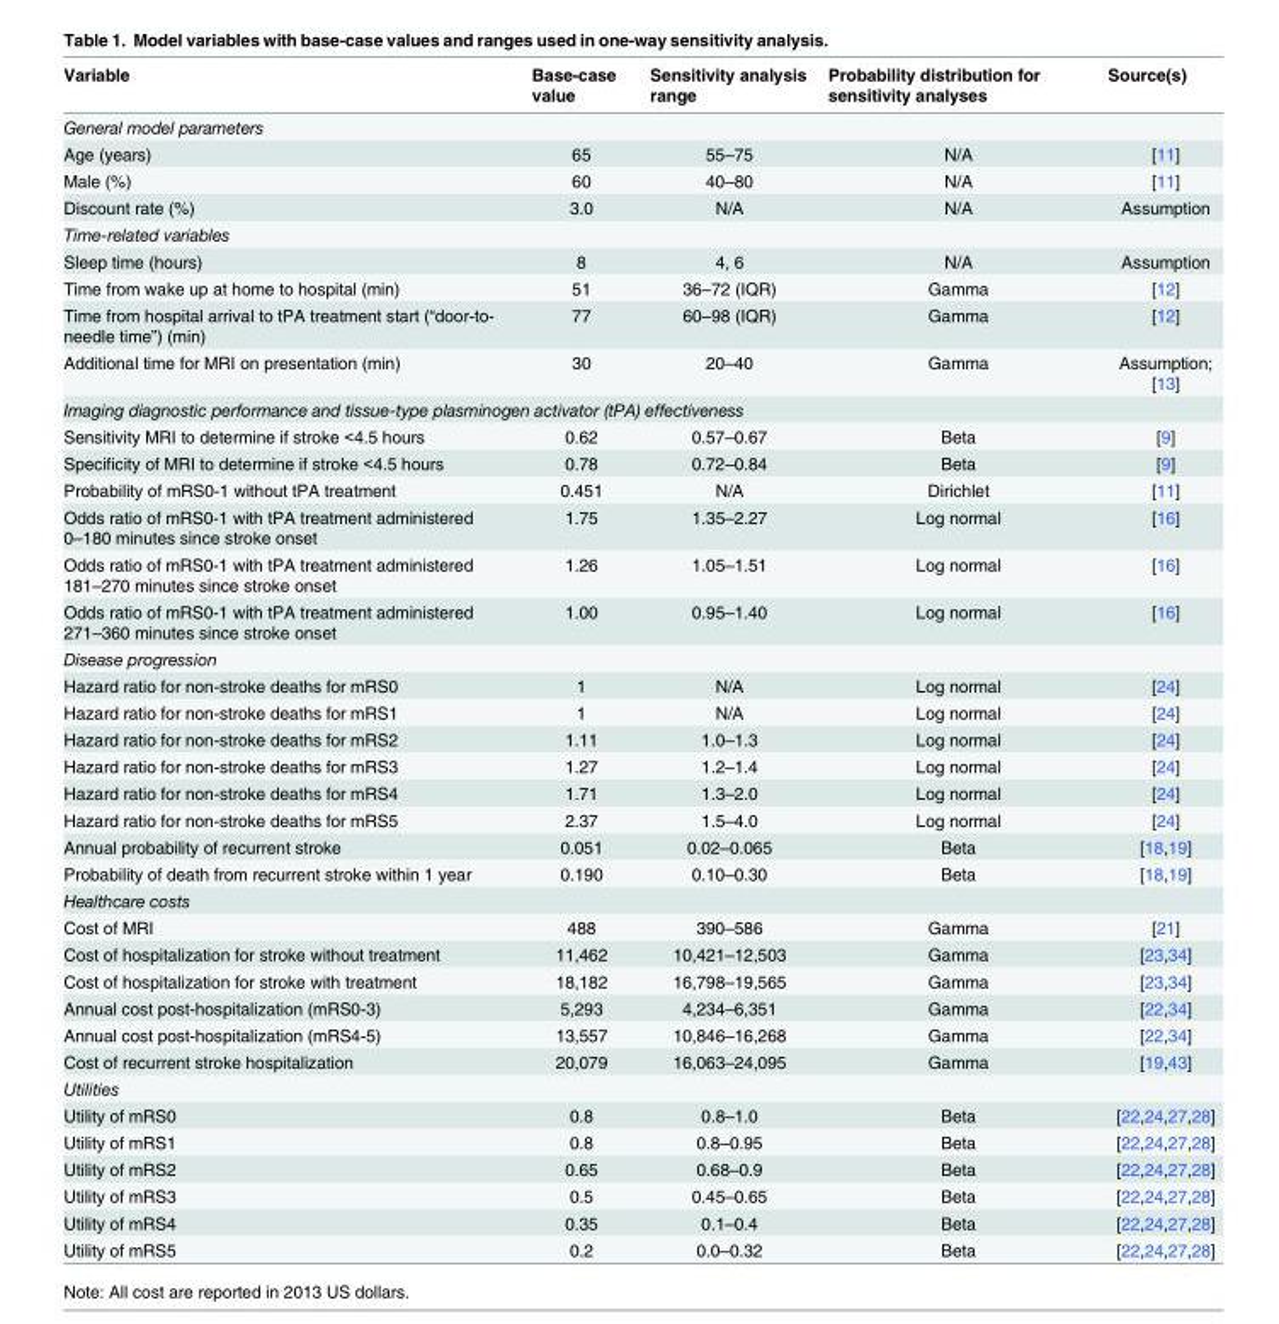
<table><thead><tr><td>Variable</td><td>Base-case value</td><td>Sensitivity analysis range</td><td>Probability distribution for sensitivity analyses</td><td>Source(s)</td></tr></thead><tbody><tr><td colspan="5">General model parameters</td></tr><tr><td>Age (years)</td><td>65</td><td>55–75</td><td>N/A</td><td>[11]</td></tr><tr><td>Male (%)</td><td>60</td><td>40–80</td><td>N/A</td><td>[11]</td></tr><tr><td>Discount rate (%)</td><td>3.0</td><td>N/A</td><td>N/A</td><td>Assumption</td></tr><tr><td colspan="5">Time-related variables</td></tr><tr><td>Sleep time (hours)</td><td>8</td><td>4, 6</td><td>N/A</td><td>Assumption</td></tr><tr><td>Time from wake up at home to hospital (min)</td><td>51</td><td>36–72 (IQR)</td><td>Gamma</td><td>[12]</td></tr><tr><td>Time from hospital arrival to tPA treatment start (“door-to- needle time”) (min)</td><td>77</td><td>60–98 (IQR)</td><td>Gamma</td><td>[12]</td></tr><tr><td>Additional time for MRI on presentation (min)</td><td>30</td><td>20–40</td><td>Gamma</td><td>Assumption; [13]</td></tr><tr><td colspan="5">Imaging diagnostic performance and tissue-type plasminogen activator (tPA) effectiveness</td></tr><tr><td>Sensitivity MRI to determine if stroke &lt;4.5 hours</td><td>0.62</td><td>0.57–0.67</td><td>Beta</td><td>[9]</td></tr><tr><td>Specificity of MRI to determine if stroke &lt;4.5 hours</td><td>0.78</td><td>0.72–0.84</td><td>Beta</td><td>[9]</td></tr><tr><td>Probability of mRS0-1 without tPA treatment</td><td>0.451</td><td>N/A</td><td>Dirichlet</td><td>[11]</td></tr><tr><td>Odds ratio of mRS0-1 with tPA treatment administered 0–180 minutes since stroke onset</td><td>1.75</td><td>1.35–2.27</td><td>Log normal</td><td>[16]</td></tr><tr><td>Odds ratio of mRS0-1 with tPA treatment administered 181–270 minutes since stroke onset</td><td>1.26</td><td>1.05–1.51</td><td>Log normal</td><td>[16]</td></tr><tr><td>Odds ratio of mRS0-1 with tPA treatment administered 271–360 minutes since stroke onset</td><td>1.00</td><td>0.95–1.40</td><td>Log normal</td><td>[16]</td></tr><tr><td colspan="5">Disease progression</td></tr><tr><td>Hazard ratio for non-stroke deaths for mRS0</td><td>1</td><td>N/A</td><td>Log normal</td><td>[24]</td></tr><tr><td>Hazard ratio for non-stroke deaths for mRS1</td><td>1</td><td>N/A</td><td>Log normal</td><td>[24]</td></tr><tr><td>Hazard ratio for non-stroke deaths for mRS2</td><td>1.11</td><td>1.0–1.3</td><td>Log normal</td><td>[24]</td></tr><tr><td>Hazard ratio for non-stroke deaths for mRS3</td><td>1.27</td><td>1.2–1.4</td><td>Log normal</td><td>[24]</td></tr><tr><td>Hazard ratio for non-stroke deaths for mRS4</td><td>1.71</td><td>1.3–2.0</td><td>Log normal</td><td>[24]</td></tr><tr><td>Hazard ratio for non-stroke deaths for mRS5</td><td>2.37</td><td>1.5–4.0</td><td>Log normal</td><td>[24]</td></tr><tr><td>Annual probability of recurrent stroke</td><td>0.051</td><td>0.02–0.065</td><td>Beta</td><td>[18,19]</td></tr><tr><td>Probability of death from recurrent stroke within 1 year</td><td>0.190</td><td>0.10–0.30</td><td>Beta</td><td>[18,19]</td></tr><tr><td colspan="5">Healthcare costs</td></tr><tr><td>Cost of MRI</td><td>488</td><td>390–586</td><td>Gamma</td><td>[21]</td></tr><tr><td>Cost of hospitalization for stroke without treatment</td><td>11,462</td><td>10,421–12,503</td><td>Gamma</td><td>[23,34]</td></tr><tr><td>Cost of hospitalization for stroke with treatment</td><td>18,182</td><td>16,798–19,565</td><td>Gamma</td><td>[23,34]</td></tr><tr><td>Annual cost post-hospitalization (mRS0-3)</td><td>5,293</td><td>4,234–6,351</td><td>Gamma</td><td>[22,34]</td></tr><tr><td>Annual cost post-hospitalization (mRS4-5)</td><td>13,557</td><td>10,846–16,268</td><td>Gamma</td><td>[22,34]</td></tr><tr><td>Cost of recurrent stroke hospitalization</td><td>20,079</td><td>16,063–24,095</td><td>Gamma</td><td>[19,43]</td></tr><tr><td colspan="5">Utilities</td></tr><tr><td>Utility of mRS0</td><td>0.8</td><td>0.8–1.0</td><td>Beta</td><td>[22,24,27,28]</td></tr><tr><td>Utility of mRS1</td><td>0.8</td><td>0.8–0.95</td><td>Beta</td><td>[22,24,27,28]</td></tr><tr><td>Utility of mRS2</td><td>0.65</td><td>0.68–0.9</td><td>Beta</td><td>[22,24,27,28]</td></tr><tr><td>Utility of mRS3</td><td>0.5</td><td>0.45–0.65</td><td>Beta</td><td>[22,24,27,28]</td></tr><tr><td>Utility of mRS4</td><td>0.35</td><td>0.1–0.4</td><td>Beta</td><td>[22,24,27,28]</td></tr><tr><td>Utility of mRS5</td><td>0.2</td><td>0.0–0.32</td><td>Beta</td><td>[22,24,27,28]</td></tr></tbody></table>